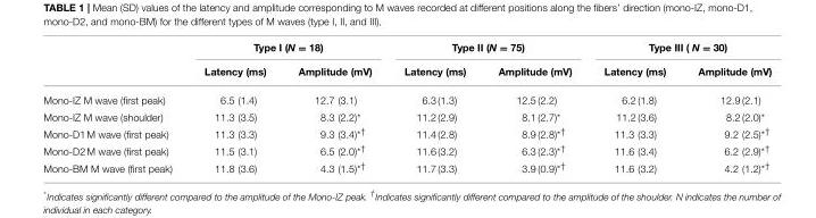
<table><thead><tr><td rowspan="2"></td><td colspan="2">Type I (N = 18)</td><td colspan="2">Type II (N = 75)</td><td colspan="2">Type III ( N = 30)</td></tr><tr><td>Latency (ms)</td><td>Amplitude (mV)</td><td>Latency (ms)</td><td>Amplitude (mV)</td><td>Latency (ms)</td><td>Amplitude (mV)</td></tr></thead><tbody><tr><td>Mono-IZ M wave (first peak)</td><td>6.5 (1.4)</td><td>12.7 (3.1)</td><td>6.3 (1.3)</td><td>12.5 (2.2)</td><td>6.2 (1.8)</td><td>12.9 (2.1)</td></tr><tr><td>Mono-IZ M wave (shoulder)</td><td>11.3 (3.5)</td><td>8.3 (2.2)*</td><td>11.2 (2.9)</td><td>8.1 (2.7)*</td><td>11.2 (3.6)</td><td>8.2 (2.0)*</td></tr><tr><td>Mono-D1 M wave (first peak)</td><td>11.3 (3.3)</td><td>9.3 (3.4)<sup>*†</sup></td><td>11.4 (2.8)</td><td>8.9 (2.8)<sup>*†</sup></td><td>11.3 (3.3)</td><td>9.2 (2.5)<sup>*†</sup></td></tr><tr><td>Mono-D2 M wave (first peak)</td><td>11.5 (3.1)</td><td>6.5 (2.0)<sup>*†</sup></td><td>11.6 (3.2)</td><td>6.3 (2.3)<sup>*†</sup></td><td>11.6 (3.4)</td><td>6.2 (2.9)<sup>*†</sup></td></tr><tr><td>Mono-BM M wave (first peak)</td><td>11.8 (3.6)</td><td>4.3 (1.5)<sup>*†</sup></td><td>11.7 (3.3)</td><td>3.9 (0.9)<sup>*†</sup></td><td>11.6 (3.2)</td><td>4.2 (1.2)<sup>*†</sup></td></tr></tbody></table>